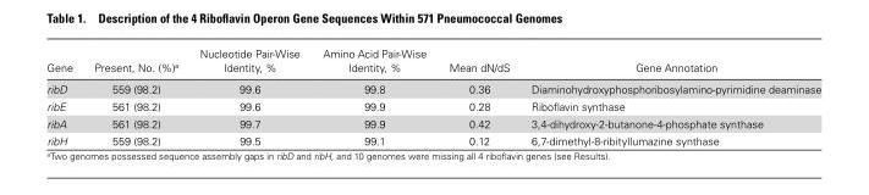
<table><thead><tr><td>Gene</td><td>Present, No. (%)<sup>a</sup></td><td>Nucleotide Pair-Wise Identity, %</td><td>Amino Acid Pair-Wise Identity, %</td><td>Mean dN/dS</td><td>Gene Annotation</td></tr></thead><tbody><tr><td>ribD</td><td>559 (98.2)</td><td>99.6</td><td>99.8</td><td>0.36</td><td>Diaminohydroxyphosphoribosylamino-pyrimidine deaminase</td></tr><tr><td>ribE</td><td>561 (98.2)</td><td>99.6</td><td>99.9</td><td>0.28</td><td>Riboflavin synthase</td></tr><tr><td>ribA</td><td>561 (98.2)</td><td>99.7</td><td>99.9</td><td>0.42</td><td>3,4-dihydroxy-2-butanone-4-phosphate synthase</td></tr><tr><td>ribH</td><td>559 (98.2)</td><td>99.5</td><td>99.1</td><td>0.12</td><td>6,7-dimethyl-8-ribityllumazine synthase</td></tr></tbody></table>